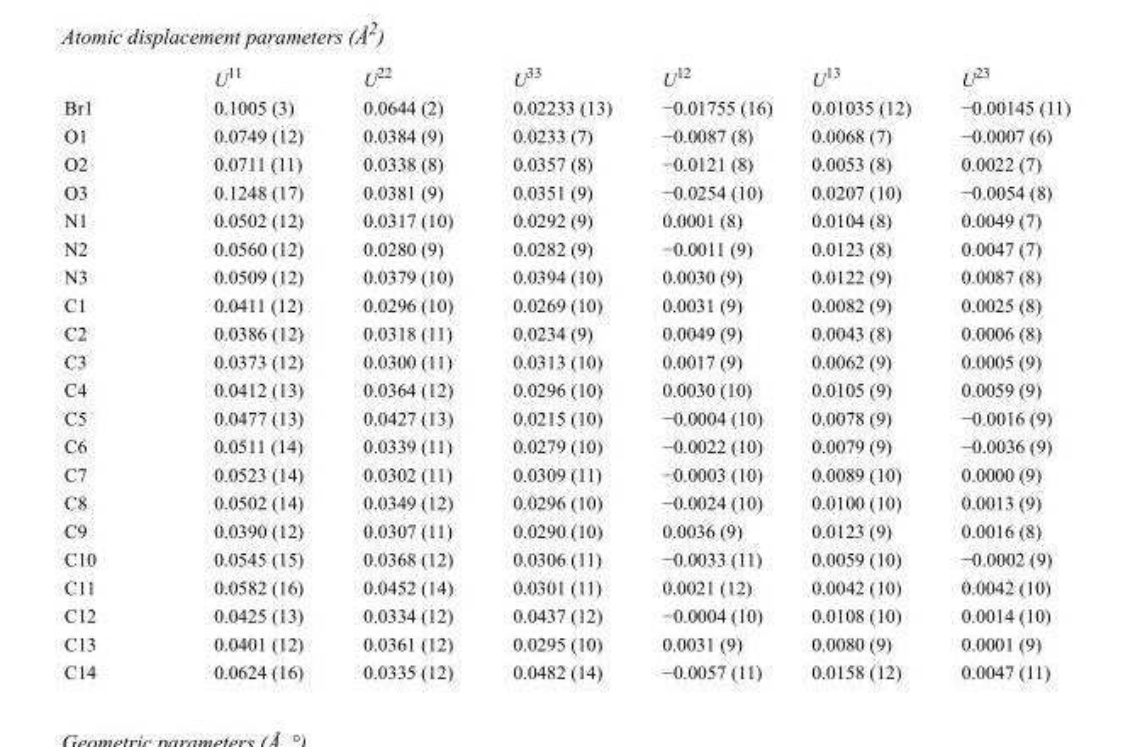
<table><thead><tr><td></td><td>U<sup>11</sup></td><td>U<sup>22</sup></td><td>U<sup>33</sup></td><td>U<sup>12</sup></td><td>U<sup>13</sup></td><td>U<sup>23</sup></td></tr></thead><tbody><tr><td>Br1</td><td>0.1005 (3)</td><td>0.0644 (2)</td><td>0.02233 (13)</td><td>−0.01755 (16)</td><td>0.01035 (12)</td><td>−0.00145 (11)</td></tr><tr><td>O1</td><td>0.0749 (12)</td><td>0.0384 (9)</td><td>0.0233 (7)</td><td>−0.0087 (8)</td><td>0.0068 (7)</td><td>−0.0007 (6)</td></tr><tr><td>O2</td><td>0.0711 (11)</td><td>0.0338 (8)</td><td>0.0357 (8)</td><td>−0.0121 (8)</td><td>0.0053 (8)</td><td>0.0022 (7)</td></tr><tr><td>O3</td><td>0.1248 (17)</td><td>0.0381 (9)</td><td>0.0351 (9)</td><td>−0.0254 (10)</td><td>0.0207 (10)</td><td>−0.0054 (8)</td></tr><tr><td>N1</td><td>0.0502 (12)</td><td>0.0317 (10)</td><td>0.0292 (9)</td><td>0.0001 (8)</td><td>0.0104 (8)</td><td>0.0049 (7)</td></tr><tr><td>N2</td><td>0.0560 (12)</td><td>0.0280 (9)</td><td>0.0282 (9)</td><td>−0.0011 (9)</td><td>0.0123 (8)</td><td>0.0047 (7)</td></tr><tr><td>N3</td><td>0.0509 (12)</td><td>0.0379 (10)</td><td>0.0394 (10)</td><td>0.0030 (9)</td><td>0.0122 (9)</td><td>0.0087 (8)</td></tr><tr><td>C1</td><td>0.0411 (12)</td><td>0.0296 (10)</td><td>0.0269 (10)</td><td>0.0031 (9)</td><td>0.0082 (9)</td><td>0.0025 (8)</td></tr><tr><td>C2</td><td>0.0386 (12)</td><td>0.0318 (11)</td><td>0.0234 (9)</td><td>0.0049 (9)</td><td>0.0043 (8)</td><td>0.0006 (8)</td></tr><tr><td>C3</td><td>0.0373 (12)</td><td>0.0300 (11)</td><td>0.0313 (10)</td><td>0.0017 (9)</td><td>0.0062 (9)</td><td>0.0005 (9)</td></tr><tr><td>C4</td><td>0.0412 (13)</td><td>0.0364 (12)</td><td>0.0296 (10)</td><td>0.0030 (10)</td><td>0.0105 (9)</td><td>0.0059 (9)</td></tr><tr><td>C5</td><td>0.0477 (13)</td><td>0.0427 (13)</td><td>0.0215 (10)</td><td>−0.0004 (10)</td><td>0.0078 (9)</td><td>−0.0016 (9)</td></tr><tr><td>C6</td><td>0.0511 (14)</td><td>0.0339 (11)</td><td>0.0279 (10)</td><td>−0.0022 (10)</td><td>0.0079 (9)</td><td>−0.0036 (9)</td></tr><tr><td>C7</td><td>0.0523 (14)</td><td>0.0302 (11)</td><td>0.0309 (11)</td><td>−0.0003 (10)</td><td>0.0089 (10)</td><td>0.0000 (9)</td></tr><tr><td>C8</td><td>0.0502 (14)</td><td>0.0349 (12)</td><td>0.0296 (10)</td><td>−0.0024 (10)</td><td>0.0100 (10)</td><td>0.0013 (9)</td></tr><tr><td>C9</td><td>0.0390 (12)</td><td>0.0307 (11)</td><td>0.0290 (10)</td><td>0.0036 (9)</td><td>0.0123 (9)</td><td>0.0016 (8)</td></tr><tr><td>C10</td><td>0.0545 (15)</td><td>0.0368 (12)</td><td>0.0306 (11)</td><td>−0.0033 (11)</td><td>0.0059 (10)</td><td>−0.0002 (9)</td></tr><tr><td>C11</td><td>0.0582 (16)</td><td>0.0452 (14)</td><td>0.0301 (11)</td><td>0.0021 (12)</td><td>0.0042 (10)</td><td>0.0042 (10)</td></tr><tr><td>C12</td><td>0.0425 (13)</td><td>0.0334 (12)</td><td>0.0437 (12)</td><td>−0.0004 (10)</td><td>0.0108 (10)</td><td>0.0014 (10)</td></tr><tr><td>C13</td><td>0.0401 (12)</td><td>0.0361 (12)</td><td>0.0295 (10)</td><td>0.0031 (9)</td><td>0.0080 (9)</td><td>0.0001 (9)</td></tr><tr><td>C14</td><td>0.0624 (16)</td><td>0.0335 (12)</td><td>0.0482 (14)</td><td>−0.0057 (11)</td><td>0.0158 (12)</td><td>0.0047 (11)</td></tr></tbody></table>